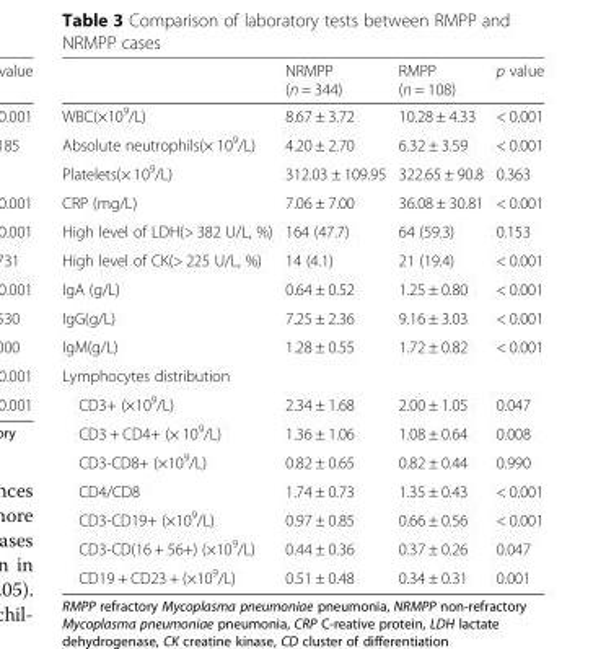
<table><thead><tr><td></td><td>NRMPP (n = 344)</td><td>RMPP (n = 108)</td><td>p value</td></tr></thead><tbody><tr><td>WBC(×10<sup>9</sup>/L)</td><td>8.67 ± 3.72</td><td>10.28 ± 4.33</td><td>&lt; 0.001</td></tr><tr><td>Absolute neutrophils(× 10<sup>9</sup>/L)</td><td>4.20 ± 2.70</td><td>6.32 ± 3.59</td><td>&lt; 0.001</td></tr><tr><td>Platelets(× 10<sup>9</sup>/L)</td><td>312.03 ± 109.95</td><td>322.65 ± 90.8</td><td>0.363</td></tr><tr><td>CRP (mg/L)</td><td>7.06 ± 7.00</td><td>36.08 ± 30.81</td><td>&lt; 0.001</td></tr><tr><td>High level of LDH(&gt; 382 U/L, %)</td><td>164 (47.7)</td><td>64 (59.3)</td><td>0.153</td></tr><tr><td>High level of CK(&gt; 225 U/L, %)</td><td>14 (4.1)</td><td>21 (19.4)</td><td>&lt; 0.001</td></tr><tr><td>IgA (g/L)</td><td>0.64 ± 0.52</td><td>1.25 ± 0.80</td><td>&lt; 0.001</td></tr><tr><td>IgG(g/L)</td><td>7.25 ± 2.36</td><td>9.16 ± 3.03</td><td>&lt; 0.001</td></tr><tr><td>IgM(g/L)</td><td>1.28 ± 0.55</td><td>1.72 ± 0.82</td><td>&lt; 0.001</td></tr><tr><td colspan="4">Lymphocytes distribution</td></tr><tr><td>CD3+ (×10<sup>9</sup>/L)</td><td>2.34 ± 1.68</td><td>2.00 ± 1.05</td><td>0.047</td></tr><tr><td>CD3 + CD4+ (× 10<sup>9</sup>/L)</td><td>1.36 ± 1.06</td><td>1.08 ± 0.64</td><td>0.008</td></tr><tr><td>CD3-CD8+ (×10<sup>9</sup>/L)</td><td>0.82 ± 0.65</td><td>0.82 ± 0.44</td><td>0.990</td></tr><tr><td>CD4/CD8</td><td>1.74 ± 0.73</td><td>1.35 ± 0.43</td><td>&lt; 0.001</td></tr><tr><td>CD3-CD19+ (×10<sup>9</sup>/L)</td><td>0.97 ± 0.85</td><td>0.66 ± 0.56</td><td>&lt; 0.001</td></tr><tr><td>CD3-CD(16 + 56+) (×10<sup>9</sup>/L)</td><td>0.44 ± 0.36</td><td>0.37 ± 0.26</td><td>0.047</td></tr><tr><td>CD19 + CD23 + (×10<sup>9</sup>/L)</td><td>0.51 ± 0.48</td><td>0.34 ± 0.31</td><td>0.001</td></tr></tbody></table>